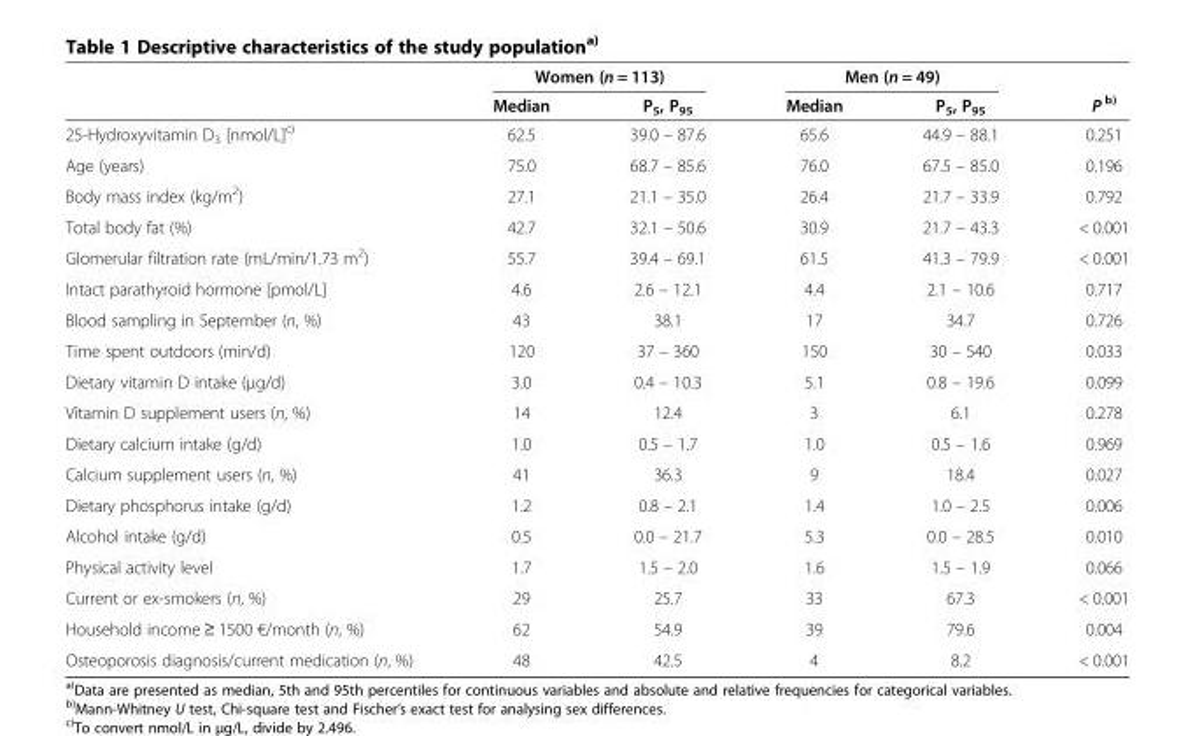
<table><thead><tr><td rowspan="2"></td><td colspan="2">Women (n = 113)</td><td colspan="2">Men (n = 49)</td><td rowspan="2">P <sup>b)</sup></td></tr><tr><td>Median</td><td>P<sub>5</sub>, P<sub>95</sub></td><td>Median</td><td>P<sub>5</sub>, P<sub>95</sub></td></tr></thead><tbody><tr><td>25-Hydroxyvitamin D<sub>3</sub> [nmol/L]<sup>c)</sup></td><td>62.5</td><td>39.0 – 87.6</td><td>65.6</td><td>44.9 – 88.1</td><td>0.251</td></tr><tr><td>Age (years)</td><td>75.0</td><td>68.7 – 85.6</td><td>76.0</td><td>67.5 – 85.0</td><td>0.196</td></tr><tr><td>Body mass index (kg/m<sup>2</sup>)</td><td>27.1</td><td>21.1 – 35.0</td><td>26.4</td><td>21.7 – 33.9</td><td>0.792</td></tr><tr><td>Total body fat (%)</td><td>42.7</td><td>32.1 – 50.6</td><td>30.9</td><td>21.7 – 43.3</td><td>&lt; 0.001</td></tr><tr><td>Glomerular filtration rate (mL/min/1.73 m<sup>2</sup>)</td><td>55.7</td><td>39.4 – 69.1</td><td>61.5</td><td>41.3 – 79.9</td><td>&lt; 0.001</td></tr><tr><td>Intact parathyroid hormone [pmol/L]</td><td>4.6</td><td>2.6 – 12.1</td><td>4.4</td><td>2.1 – 10.6</td><td>0.717</td></tr><tr><td>Blood sampling in September (n, %)</td><td>43</td><td>38.1</td><td>17</td><td>34.7</td><td>0.726</td></tr><tr><td>Time spent outdoors (min/d)</td><td>120</td><td>37 – 360</td><td>150</td><td>30 – 540</td><td>0.033</td></tr><tr><td>Dietary vitamin D intake (μg/d)</td><td>3.0</td><td>0.4 – 10.3</td><td>5.1</td><td>0.8 – 19.6</td><td>0.099</td></tr><tr><td>Vitamin D supplement users (n, %)</td><td>14</td><td>12.4</td><td>3</td><td>6.1</td><td>0.278</td></tr><tr><td>Dietary calcium intake (g/d)</td><td>1.0</td><td>0.5 – 1.7</td><td>1.0</td><td>0.5 – 1.6</td><td>0.969</td></tr><tr><td>Calcium supplement users (n, %)</td><td>41</td><td>36.3</td><td>9</td><td>18.4</td><td>0.027</td></tr><tr><td>Dietary phosphorus intake (g/d)</td><td>1.2</td><td>0.8 – 2.1</td><td>1.4</td><td>1.0 – 2.5</td><td>0.006</td></tr><tr><td>Alcohol intake (g/d)</td><td>0.5</td><td>0.0 – 21.7</td><td>5.3</td><td>0.0 – 28.5</td><td>0.010</td></tr><tr><td>Physical activity level</td><td>1.7</td><td>1.5 – 2.0</td><td>1.6</td><td>1.5 – 1.9</td><td>0.066</td></tr><tr><td>Current or ex-smokers (n, %)</td><td>29</td><td>25.7</td><td>33</td><td>67.3</td><td>&lt; 0.001</td></tr><tr><td>Household income ≥ 1500 €/month (n, %)</td><td>62</td><td>54.9</td><td>39</td><td>79.6</td><td>0.004</td></tr><tr><td>Osteoporosis diagnosis/current medication (n, %)</td><td>48</td><td>42.5</td><td>4</td><td>8.2</td><td>&lt; 0.001</td></tr></tbody></table>